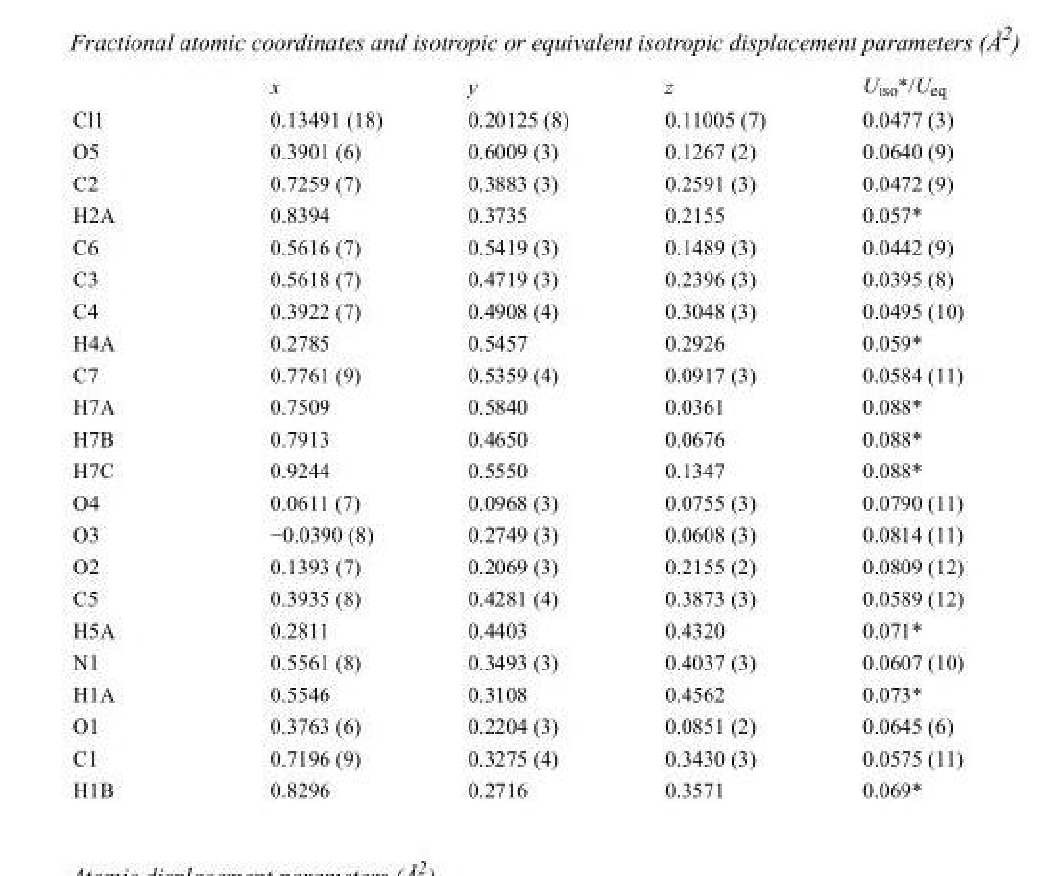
<table><thead><tr><td></td><td>x</td><td>y</td><td>z</td><td>U<sub>iso</sub>*/U<sub>eq</sub></td></tr></thead><tbody><tr><td>Cl1</td><td>0.13491 (18)</td><td>0.20125 (8)</td><td>0.11005 (7)</td><td>0.0477 (3)</td></tr><tr><td>O5</td><td>0.3901 (6)</td><td>0.6009 (3)</td><td>0.1267 (2)</td><td>0.0640 (9)</td></tr><tr><td>C2</td><td>0.7259 (7)</td><td>0.3883 (3)</td><td>0.2591 (3)</td><td>0.0472 (9)</td></tr><tr><td>H2A</td><td>0.8394</td><td>0.3735</td><td>0.2155</td><td>0.057*</td></tr><tr><td>C6</td><td>0.5616 (7)</td><td>0.5419 (3)</td><td>0.1489 (3)</td><td>0.0442 (9)</td></tr><tr><td>C3</td><td>0.5618 (7)</td><td>0.4719 (3)</td><td>0.2396 (3)</td><td>0.0395 (8)</td></tr><tr><td>C4</td><td>0.3922 (7)</td><td>0.4908 (4)</td><td>0.3048 (3)</td><td>0.0495 (10)</td></tr><tr><td>H4A</td><td>0.2785</td><td>0.5457</td><td>0.2926</td><td>0.059*</td></tr><tr><td>C7</td><td>0.7761 (9)</td><td>0.5359 (4)</td><td>0.0917 (3)</td><td>0.0584 (11)</td></tr><tr><td>H7A</td><td>0.7509</td><td>0.5840</td><td>0.0361</td><td>0.088*</td></tr><tr><td>H7B</td><td>0.7913</td><td>0.4650</td><td>0.0676</td><td>0.088*</td></tr><tr><td>H7C</td><td>0.9244</td><td>0.5550</td><td>0.1347</td><td>0.088*</td></tr><tr><td>O4</td><td>0.0611 (7)</td><td>0.0968 (3)</td><td>0.0755 (3)</td><td>0.0790 (11)</td></tr><tr><td>O3</td><td>−0.0390 (8)</td><td>0.2749 (3)</td><td>0.0608 (3)</td><td>0.0814 (11)</td></tr><tr><td>O2</td><td>0.1393 (7)</td><td>0.2069 (3)</td><td>0.2155 (2)</td><td>0.0809 (12)</td></tr><tr><td>C5</td><td>0.3935 (8)</td><td>0.4281 (4)</td><td>0.3873 (3)</td><td>0.0589 (12)</td></tr><tr><td>H5A</td><td>0.2811</td><td>0.4403</td><td>0.4320</td><td>0.071*</td></tr><tr><td>N1</td><td>0.5561 (8)</td><td>0.3493 (3)</td><td>0.4037 (3)</td><td>0.0607 (10)</td></tr><tr><td>H1A</td><td>0.5546</td><td>0.3108</td><td>0.4562</td><td>0.073*</td></tr><tr><td>O1</td><td>0.3763 (6)</td><td>0.2204 (3)</td><td>0.0851 (2)</td><td>0.0645 (6)</td></tr><tr><td>C1</td><td>0.7196 (9)</td><td>0.3275 (4)</td><td>0.3430 (3)</td><td>0.0575 (11)</td></tr><tr><td>H1B</td><td>0.8296</td><td>0.2716</td><td>0.3571</td><td>0.069*</td></tr></tbody></table>